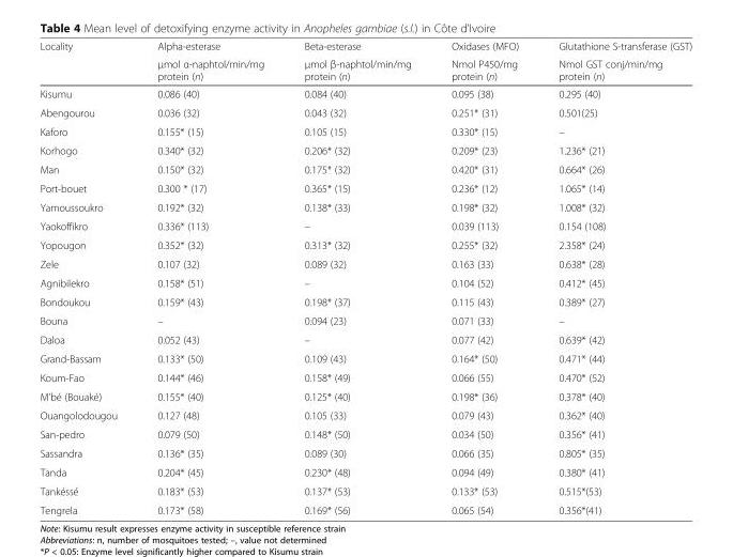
<table><thead><tr><td rowspan="2">Locality</td><td rowspan="2">Alpha-esterase μmol α-naphtol/min/mg protein (n)</td><td rowspan="2">Beta-esterase μmol β-naphtol/min/mg protein (n)</td><td rowspan="2">Oxidases (MFO) Nmol P450/mg protein (n)</td><td rowspan="2">Glutathione S-transferase (GST) Nmol GST conj/min/mg protein (n)</td></tr><tr></tr></thead><tbody><tr><td>Kisumu</td><td>0.086 (40)</td><td>0.084 (40)</td><td>0.095 (38)</td><td>0.295 (40)</td></tr><tr><td>Abengourou</td><td>0.036 (32)</td><td>0.043 (32)</td><td>0.251* (31)</td><td>0.501(25)</td></tr><tr><td>Kaforo</td><td>0.155* (15)</td><td>0.105 (15)</td><td>0.330* (15)</td><td>–</td></tr><tr><td>Korhogo</td><td>0.340* (32)</td><td>0.206* (32)</td><td>0.209* (23)</td><td>1.236* (21)</td></tr><tr><td>Man</td><td>0.150* (32)</td><td>0.175* (32)</td><td>0.420* (31)</td><td>0.664* (26)</td></tr><tr><td>Port-bouet</td><td>0.300 * (17)</td><td>0.365* (15)</td><td>0.236* (12)</td><td>1.065* (14)</td></tr><tr><td>Yamoussoukro</td><td>0.192* (32)</td><td>0.138* (33)</td><td>0.198* (32)</td><td>1.008* (32)</td></tr><tr><td>Yaokoffikro</td><td>0.336* (113)</td><td>–</td><td>0.039 (113)</td><td>0.154 (108)</td></tr><tr><td>Yopougon</td><td>0.352* (32)</td><td>0.313* (32)</td><td>0.255* (32)</td><td>2.358* (24)</td></tr><tr><td>Zele</td><td>0.107 (32)</td><td>0.089 (32)</td><td>0.163 (33)</td><td>0.638* (28)</td></tr><tr><td>Agnibilekro</td><td>0.158* (51)</td><td>–</td><td>0.104 (52)</td><td>0.412* (45)</td></tr><tr><td>Bondoukou</td><td>0.159* (43)</td><td>0.198* (37)</td><td>0.115 (43)</td><td>0.389* (27)</td></tr><tr><td>Bouna</td><td>–</td><td>0.094 (23)</td><td>0.071 (33)</td><td>–</td></tr><tr><td>Daloa</td><td>0.052 (43)</td><td>–</td><td>0.077 (42)</td><td>0.639* (42)</td></tr><tr><td>Grand-Bassam</td><td>0.133* (50)</td><td>0.109 (43)</td><td>0.164* (50)</td><td>0.471* (44)</td></tr><tr><td>Koum-Fao</td><td>0.144* (46)</td><td>0.158* (49)</td><td>0.066 (55)</td><td>0.470* (52)</td></tr><tr><td>M&#x27;bé (Bouaké)</td><td>0.155* (40)</td><td>0.125* (40)</td><td>0.198* (36)</td><td>0.378* (40)</td></tr><tr><td>Ouangolodougou</td><td>0.127 (48)</td><td>0.105 (33)</td><td>0.079 (43)</td><td>0.362* (40)</td></tr><tr><td>San-pedro</td><td>0.079 (50)</td><td>0.148* (50)</td><td>0.034 (50)</td><td>0.356* (41)</td></tr><tr><td>Sassandra</td><td>0.136* (35)</td><td>0.089 (30)</td><td>0.066 (35)</td><td>0.805* (35)</td></tr><tr><td>Tanda</td><td>0.204* (45)</td><td>0.230* (48)</td><td>0.094 (49)</td><td>0.380* (41)</td></tr><tr><td>Tankéssé</td><td>0.183* (53)</td><td>0.137* (53)</td><td>0.133* (53)</td><td>0.515*(53)</td></tr><tr><td>Tengrela</td><td>0.173* (58)</td><td>0.169* (56)</td><td>0.065 (54)</td><td>0.356*(41)</td></tr></tbody></table>